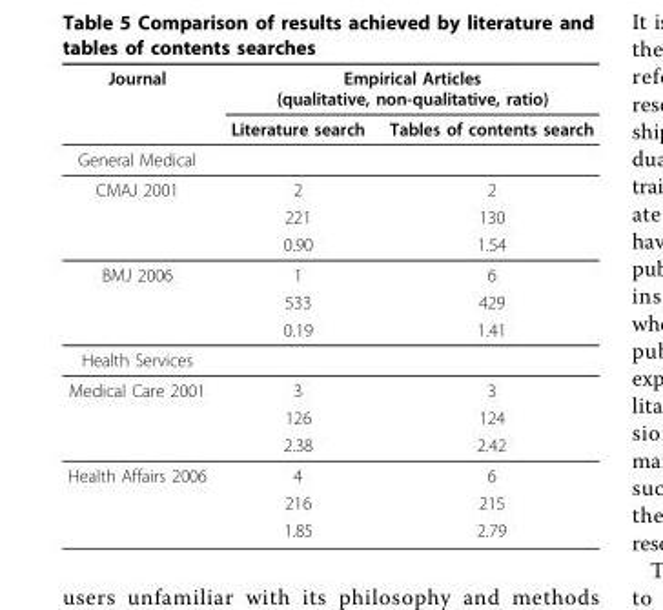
<table><thead><tr><td rowspan="2">Journal</td><td colspan="2">Empirical Articles (qualitative, non-qualitative, ratio)</td></tr><tr><td>Literature search</td><td>Tables of contents search</td></tr></thead><tbody><tr><td colspan="3">General Medical</td></tr><tr><td rowspan="3">CMAJ 2001</td><td>2</td><td>2</td></tr><tr><td>221</td><td>130</td></tr><tr><td>0.90</td><td>1.54</td></tr><tr><td rowspan="3">BMJ 2006</td><td>1</td><td>6</td></tr><tr><td>533</td><td>429</td></tr><tr><td>0.19</td><td>1.41</td></tr><tr><td colspan="3">Health Services</td></tr><tr><td rowspan="3">Medical Care 2001</td><td>3</td><td>3</td></tr><tr><td>126</td><td>124</td></tr><tr><td>2.38</td><td>2.42</td></tr><tr><td rowspan="3">Health Affairs 2006</td><td>4</td><td>6</td></tr><tr><td>216</td><td>215</td></tr><tr><td>1.85</td><td>2.79</td></tr></tbody></table>